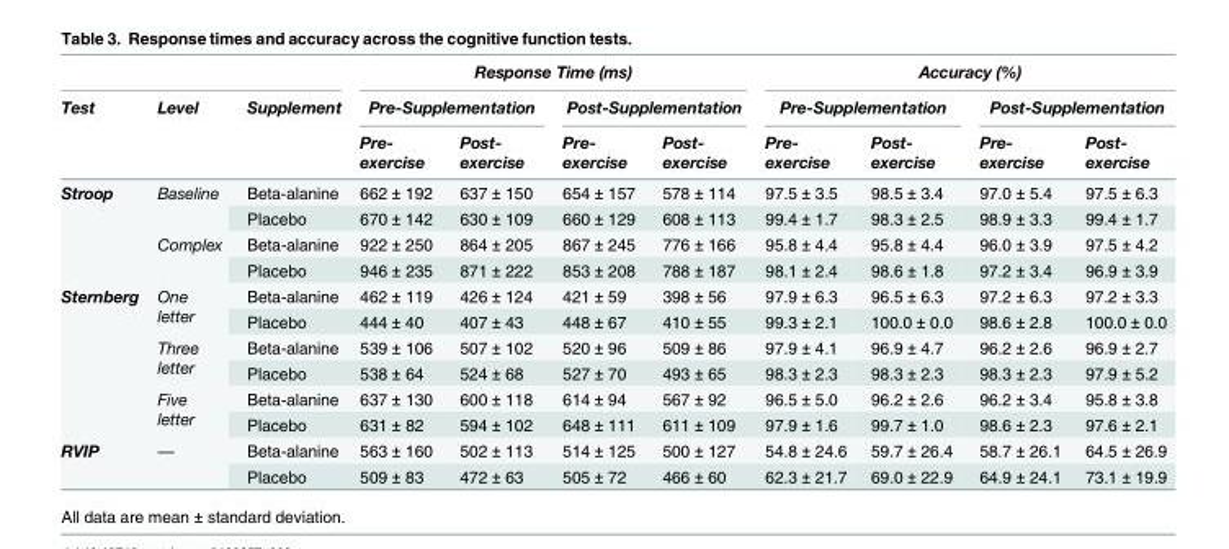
<table><thead><tr><td rowspan="3">Test</td><td rowspan="3">Level</td><td rowspan="3">Supplement</td><td colspan="4">Response Time (ms)</td><td colspan="4">Accuracy (%)</td></tr><tr><td colspan="2">Pre-Supplementation</td><td colspan="2">Post-Supplementation</td><td colspan="2">Pre-Supplementation</td><td colspan="2">Post-Supplementation</td></tr><tr><td>Pre- exercise</td><td>Post- exercise</td><td>Pre- exercise</td><td>Post- exercise</td><td>Pre- exercise</td><td>Post- exercise</td><td>Pre- exercise</td><td>Post- exercise</td></tr></thead><tbody><tr><td rowspan="4">Stroop</td><td rowspan="2">Baseline</td><td>Beta-alanine</td><td>662 ± 192</td><td>637 ± 150</td><td>654 ± 157</td><td>578 ± 114</td><td>97.5 ± 3.5</td><td>98.5 ± 3.4</td><td>97.0 ± 5.4</td><td>97.5 ± 6.3</td></tr><tr><td>Placebo</td><td>670 ± 142</td><td>630 ± 109</td><td>660 ± 129</td><td>608 ± 113</td><td>99.4 ± 1.7</td><td>98.3 ± 2.5</td><td>98.9 ± 3.3</td><td>99.4 ± 1.7</td></tr><tr><td rowspan="2">Complex</td><td>Beta-alanine</td><td>922 ± 250</td><td>864 ± 205</td><td>867 ± 245</td><td>776 ± 166</td><td>95.8 ± 4.4</td><td>95.8 ± 4.4</td><td>96.0 ± 3.9</td><td>97.5 ± 4.2</td></tr><tr><td>Placebo</td><td>946 ± 235</td><td>871 ± 222</td><td>853 ± 208</td><td>788 ± 187</td><td>98.1 ± 2.4</td><td>98.6 ± 1.8</td><td>97.2 ± 3.4</td><td>96.9 ± 3.9</td></tr><tr><td rowspan="6">Sternberg</td><td rowspan="2">One letter</td><td>Beta-alanine</td><td>462 ± 119</td><td>426 ± 124</td><td>421 ± 59</td><td>398 ± 56</td><td>97.9 ± 6.3</td><td>96.5 ± 6.3</td><td>97.2 ± 6.3</td><td>97.2 ± 3.3</td></tr><tr><td>Placebo</td><td>444 ± 40</td><td>407 ± 43</td><td>448 ± 67</td><td>410 ± 55</td><td>99.3 ± 2.1</td><td>100.0 ± 0.0</td><td>98.6 ± 2.8</td><td>100.0 ± 0.0</td></tr><tr><td rowspan="2">Three letter</td><td>Beta-alanine</td><td>539 ± 106</td><td>507 ± 102</td><td>520 ± 96</td><td>509 ± 86</td><td>97.9 ± 4.1</td><td>96.9 ± 4.7</td><td>96.2 ± 2.6</td><td>96.9 ± 2.7</td></tr><tr><td>Placebo</td><td>538 ± 64</td><td>524 ± 68</td><td>527 ± 70</td><td>493 ± 65</td><td>98.3 ± 2.3</td><td>98.3 ± 2.3</td><td>98.3 ± 2.3</td><td>97.9 ± 5.2</td></tr><tr><td rowspan="2">Five letter</td><td>Beta-alanine</td><td>637 ± 130</td><td>600 ± 118</td><td>614 ± 94</td><td>567 ± 92</td><td>96.5 ± 5.0</td><td>96.2 ± 2.6</td><td>96.2 ± 3.4</td><td>95.8 ± 3.8</td></tr><tr><td>Placebo</td><td>631 ± 82</td><td>594 ± 102</td><td>648 ± 111</td><td>611 ± 109</td><td>97.9 ± 1.6</td><td>99.7 ± 1.0</td><td>98.6 ± 2.3</td><td>97.6 ± 2.1</td></tr><tr><td rowspan="2">RVIP</td><td rowspan="2">—</td><td>Beta-alanine</td><td>563 ± 160</td><td>502 ± 113</td><td>514 ± 125</td><td>500 ± 127</td><td>54.8 ± 24.6</td><td>59.7 ± 26.4</td><td>58.7 ± 26.1</td><td>64.5 ± 26.9</td></tr><tr><td>Placebo</td><td>509 ± 83</td><td>472 ± 63</td><td>505 ± 72</td><td>466 ± 60</td><td>62.3 ± 21.7</td><td>69.0 ± 22.9</td><td>64.9 ± 24.1</td><td>73.1 ± 19.9</td></tr></tbody></table>